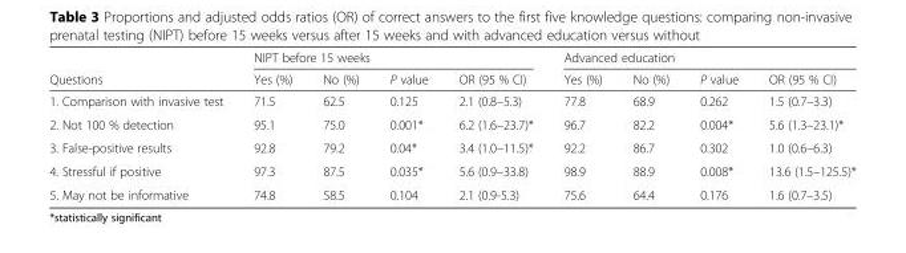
<table><thead><tr><td rowspan="2">Questions</td><td colspan="4">NIPT before 15 weeks</td><td colspan="4">Advanced education</td></tr><tr><td>Yes (%)</td><td>No (%)</td><td>P value</td><td>OR (95 % CI)</td><td>Yes (%)</td><td>No (%)</td><td>P value</td><td>OR (95 % CI)</td></tr></thead><tbody><tr><td>1. Comparison with invasive test</td><td>71.5</td><td>62.5</td><td>0.125</td><td>2.1 (0.8–5.3)</td><td>77.8</td><td>68.9</td><td>0.262</td><td>1.5 (0.7–3.3)</td></tr><tr><td>2. Not 100 % detection</td><td>95.1</td><td>75.0</td><td>0.001*</td><td>6.2 (1.6–23.7)*</td><td>96.7</td><td>82.2</td><td>0.004*</td><td>5.6 (1.3–23.1)*</td></tr><tr><td>3. False-positive results</td><td>92.8</td><td>79.2</td><td>0.04*</td><td>3.4 (1.0–11.5)*</td><td>92.2</td><td>86.7</td><td>0.302</td><td>1.0 (0.6–6.3)</td></tr><tr><td>4. Stressful if positive</td><td>97.3</td><td>87.5</td><td>0.035*</td><td>5.6 (0.9–33.8)</td><td>98.9</td><td>88.9</td><td>0.008*</td><td>13.6 (1.5–125.5)*</td></tr><tr><td>5. May not be informative</td><td>74.8</td><td>58.5</td><td>0.104</td><td>2.1 (0.9-5.3)</td><td>75.6</td><td>64.4</td><td>0.176</td><td>1.6 (0.7–3.5)</td></tr></tbody></table>